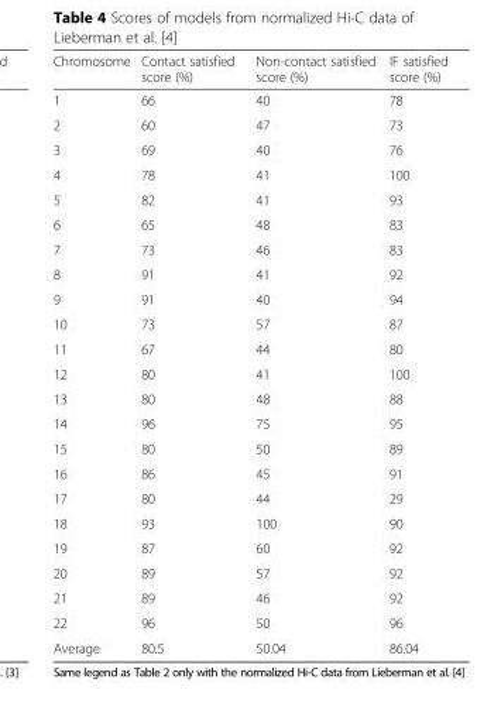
<table><thead><tr><td>Chromosome</td><td>Contact satisfied score (%)</td><td>Non-contact satisfied score (%)</td><td>IF satisfied score (%)</td></tr></thead><tbody><tr><td>1</td><td>66</td><td>40</td><td>78</td></tr><tr><td>2</td><td>60</td><td>47</td><td>73</td></tr><tr><td>3</td><td>69</td><td>40</td><td>76</td></tr><tr><td>4</td><td>78</td><td>41</td><td>100</td></tr><tr><td>5</td><td>82</td><td>41</td><td>93</td></tr><tr><td>6</td><td>65</td><td>48</td><td>83</td></tr><tr><td>7</td><td>73</td><td>46</td><td>83</td></tr><tr><td>8</td><td>91</td><td>41</td><td>92</td></tr><tr><td>9</td><td>91</td><td>40</td><td>94</td></tr><tr><td>10</td><td>73</td><td>57</td><td>87</td></tr><tr><td>11</td><td>67</td><td>44</td><td>80</td></tr><tr><td>12</td><td>80</td><td>41</td><td>100</td></tr><tr><td>13</td><td>80</td><td>48</td><td>88</td></tr><tr><td>14</td><td>96</td><td>75</td><td>95</td></tr><tr><td>15</td><td>80</td><td>50</td><td>89</td></tr><tr><td>16</td><td>86</td><td>45</td><td>91</td></tr><tr><td>17</td><td>80</td><td>44</td><td>29</td></tr><tr><td>18</td><td>93</td><td>100</td><td>90</td></tr><tr><td>19</td><td>87</td><td>60</td><td>92</td></tr><tr><td>20</td><td>89</td><td>57</td><td>92</td></tr><tr><td>21</td><td>89</td><td>46</td><td>92</td></tr><tr><td>22</td><td>96</td><td>50</td><td>96</td></tr><tr><td>Average</td><td>80.5</td><td>50.04</td><td>86.04</td></tr></tbody></table>